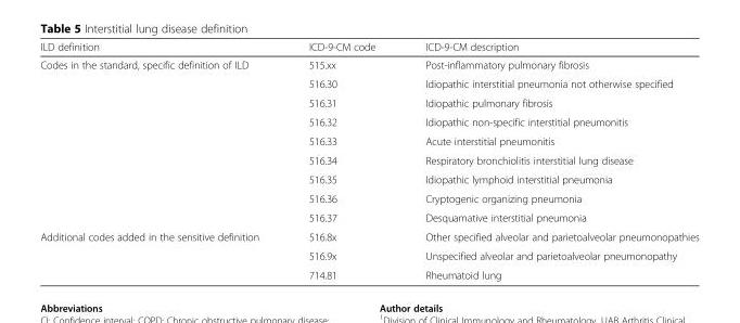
<table><thead><tr><td>ILD definition</td><td>ICD-9-CM code</td><td>ICD-9-CM description</td></tr></thead><tbody><tr><td rowspan="9">Codes in the standard, specific definition of ILD</td><td>515.xx</td><td>Post-inflammatory pulmonary fibrosis</td></tr><tr><td>516.30</td><td>Idiopathic interstitial pneumonia not otherwise specified</td></tr><tr><td>516.31</td><td>Idiopathic pulmonary fibrosis</td></tr><tr><td>516.32</td><td>Idiopathic non-specific interstitial pneumonitis</td></tr><tr><td>516.33</td><td>Acute interstitial pneumonitis</td></tr><tr><td>516.34</td><td>Respiratory bronchiolitis interstitial lung disease</td></tr><tr><td>516.35</td><td>Idiopathic lymphoid interstitial pneumonia</td></tr><tr><td>516.36</td><td>Cryptogenic organizing pneumonia</td></tr><tr><td>516.37</td><td>Desquamative interstitial pneumonia</td></tr><tr><td rowspan="3">Additional codes added in the sensitive definition</td><td>516.8x</td><td>Other specified alveolar and parietoalveolar pneumonopathies</td></tr><tr><td>516.9x</td><td>Unspecified alveolar and parietoalveolar pneumonopathy</td></tr><tr><td>714.81</td><td>Rheumatoid lung</td></tr></tbody></table>